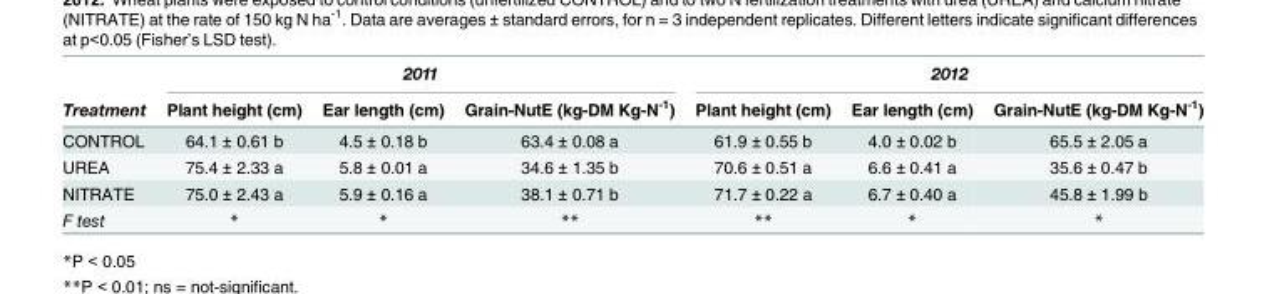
<table><thead><tr><td rowspan="2">Treatment</td><td colspan="3">2011</td><td colspan="3">2012</td></tr><tr><td>Plant height (cm)</td><td>Ear length (cm)</td><td>Grain-NutE (kg-DM Kg-N<sup>-1</sup>)</td><td>Plant height (cm)</td><td>Ear length (cm)</td><td>Grain-NutE (kg-DM Kg-N<sup>-1</sup>)</td></tr></thead><tbody><tr><td>CONTROL</td><td>64.1 ± 0.61 b</td><td>4.5 ± 0.18 b</td><td>63.4 ± 0.08 a</td><td>61.9 ± 0.55 b</td><td>4.0 ± 0.02 b</td><td>65.5 ± 2.05 a</td></tr><tr><td>UREA</td><td>75.4 ± 2.33 a</td><td>5.8 ± 0.01 a</td><td>34.6 ± 1.35 b</td><td>70.6 ± 0.51 a</td><td>6.6 ± 0.41 a</td><td>35.6 ± 0.47 b</td></tr><tr><td>NITRATE</td><td>75.0 ± 2.43 a</td><td>5.9 ± 0.16 a</td><td>38.1 ± 0.71 b</td><td>71.7 ± 0.22 a</td><td>6.7 ± 0.40 a</td><td>45.8 ± 1.99 b</td></tr><tr><td>F test</td><td>*</td><td>*</td><td>**</td><td>**</td><td>*</td><td>*</td></tr></tbody></table>